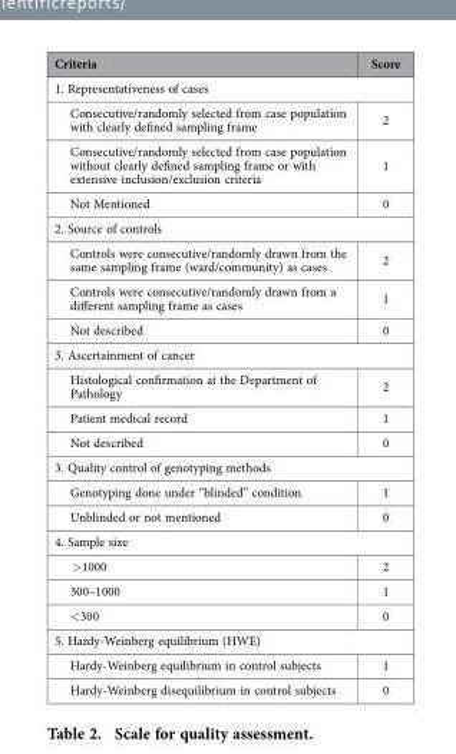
<table><thead><tr><td>Criteria</td><td>Score</td></tr></thead><tbody><tr><td colspan="2">1. Representativeness of cases</td></tr><tr><td>Consecutive/randomly selected from case population with clearly defined sampling frame</td><td>2</td></tr><tr><td>Consecutive/randomly selected from case population without clearly defined sampling frame or with extensive inclusion/exclusion criteria</td><td>1</td></tr><tr><td>Not Mentioned</td><td>0</td></tr><tr><td colspan="2">2. Source of controls</td></tr><tr><td>Controls were consecutive/randomly drawn from the same sampling frame (ward/community) as cases</td><td>2</td></tr><tr><td>Controls were consecutive/randomly drawn from a different sampling frame as cases</td><td>1</td></tr><tr><td>Not described</td><td>0</td></tr><tr><td colspan="2">3. Ascertainment of cancer</td></tr><tr><td>Histological confirmation at the Department of Pathology</td><td>2</td></tr><tr><td>Patient medical record</td><td>1</td></tr><tr><td>Not described</td><td>0</td></tr><tr><td colspan="2">3. Quality control of genotyping methods</td></tr><tr><td>Genotyping done under “blinded” condition</td><td>1</td></tr><tr><td>Unblinded or not mentioned</td><td>0</td></tr><tr><td colspan="2">4. Sample size</td></tr><tr><td>&gt;1000</td><td>2</td></tr><tr><td>300–1000</td><td>1</td></tr><tr><td>&lt;300</td><td>0</td></tr><tr><td colspan="2">5. Hardy-Weinberg equilibrium (HWE)</td></tr><tr><td>Hardy-Weinberg equilibrium in control subjects</td><td>1</td></tr><tr><td>Hardy-Weinberg disequilibrium in control subjects</td><td>0</td></tr></tbody></table>